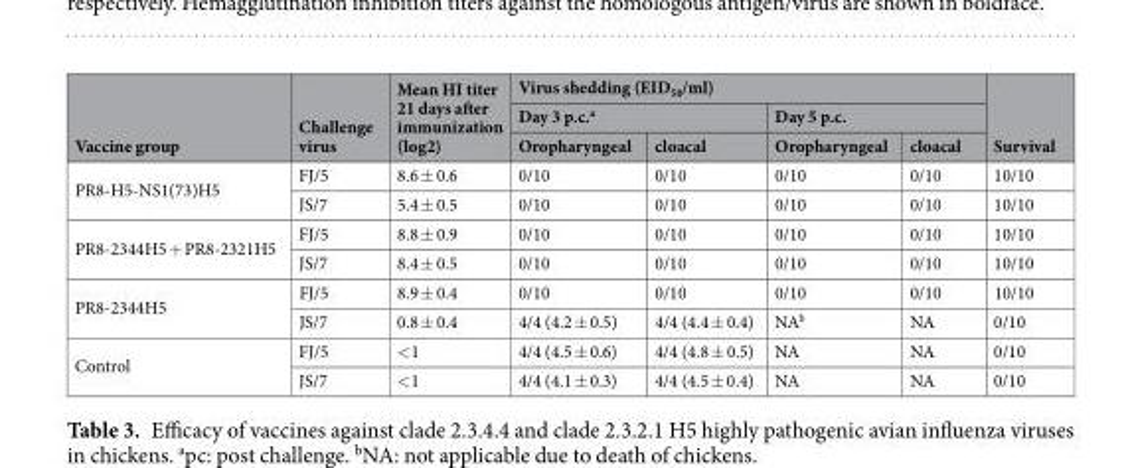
<table><thead><tr><td rowspan="3">Vaccine group</td><td rowspan="3">Challenge virus</td><td rowspan="3">Mean HI titer 21 days after immunization (log2)</td><td colspan="4">Virus shedding (EID<sub>50</sub>/ml)</td><td rowspan="3">Survival</td></tr><tr><td colspan="2">Day 3 p.c.<sup>a</sup></td><td colspan="2">Day 5 p.c.</td></tr><tr><td>Oropharyngeal</td><td>cloacal</td><td>Oropharyngeal</td><td>cloacal</td></tr></thead><tbody><tr><td rowspan="2">PR8-H5-NS1(73)H5</td><td>FJ/5</td><td>8.6 ± 0.6</td><td>0/10</td><td>0/10</td><td>0/10</td><td>0/10</td><td>10/10</td></tr><tr><td>JS/7</td><td>5.4 ± 0.5</td><td>0/10</td><td>0/10</td><td>0/10</td><td>0/10</td><td>10/10</td></tr><tr><td rowspan="2">PR8-2344H5 + PR8-2321H5</td><td>FJ/5</td><td>8.8 ± 0.9</td><td>0/10</td><td>0/10</td><td>0/10</td><td>0/10</td><td>10/10</td></tr><tr><td>JS/7</td><td>8.4 ± 0.5</td><td>0/10</td><td>0/10</td><td>0/10</td><td>0/10</td><td>10/10</td></tr><tr><td rowspan="2">PR8-2344H5</td><td>FJ/5</td><td>8.9 ± 0.4</td><td>0/10</td><td>0/10</td><td>0/10</td><td>0/10</td><td>10/10</td></tr><tr><td>JS/7</td><td>0.8 ± 0.4</td><td>4/4 (4.2 ± 0.5)</td><td>4/4 (4.4 ± 0.4)</td><td>NA<sup>b</sup></td><td>NA</td><td>0/10</td></tr><tr><td rowspan="2">Control</td><td>FJ/5</td><td>&lt;1</td><td>4/4 (4.5 ± 0.6)</td><td>4/4 (4.8 ± 0.5)</td><td>NA</td><td>NA</td><td>0/10</td></tr><tr><td>JS/7</td><td>&lt;1</td><td>4/4 (4.1 ± 0.3)</td><td>4/4 (4.5 ± 0.4)</td><td>NA</td><td>NA</td><td>0/10</td></tr></tbody></table>